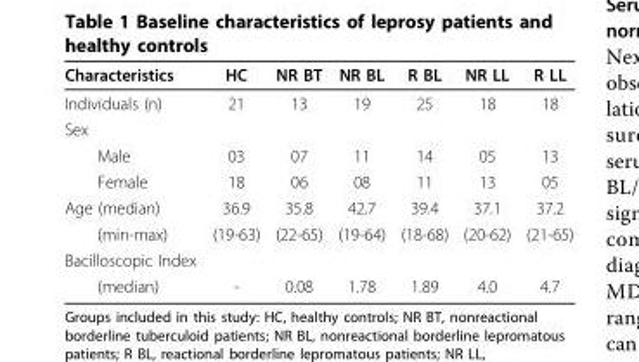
<table><thead><tr><td>Characteristics</td><td>HC</td><td>NR BT</td><td>NR BL</td><td>R BL</td><td>NR LL</td><td>R LL</td></tr></thead><tbody><tr><td>Individuals (n)</td><td>21</td><td>13</td><td>19</td><td>25</td><td>18</td><td>18</td></tr><tr><td colspan="7">Sex</td></tr><tr><td>Male</td><td>03</td><td>07</td><td>11</td><td>14</td><td>05</td><td>13</td></tr><tr><td>Female</td><td>18</td><td>06</td><td>08</td><td>11</td><td>13</td><td>05</td></tr><tr><td>Age (median)</td><td>36.9</td><td>35.8</td><td>42.7</td><td>39.4</td><td>37.1</td><td>37.2</td></tr><tr><td>(min-max)</td><td>(19-63)</td><td>(22-65)</td><td>(19-64)</td><td>(18-68)</td><td>(20-62)</td><td>(21-65)</td></tr><tr><td colspan="7">Bacilloscopic Index</td></tr><tr><td>(median)</td><td>-</td><td>0.08</td><td>1.78</td><td>1.89</td><td>4.0</td><td>4.7</td></tr></tbody></table>